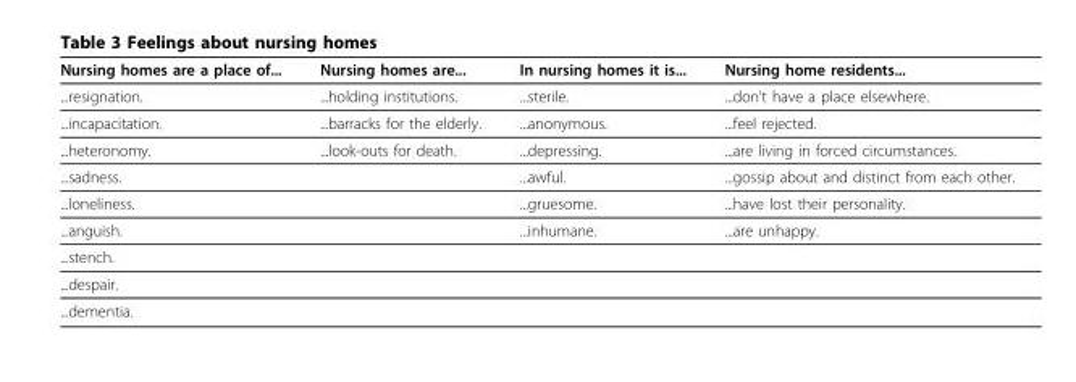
<table><thead><tr><td>Nursing homes are a place of...</td><td>Nursing homes are...</td><td>In nursing homes it is...</td><td>Nursing home residents...</td></tr></thead><tbody><tr><td>...resignation.</td><td>...holding institutions.</td><td>...sterile.</td><td>...don’t have a place elsewhere.</td></tr><tr><td>...incapacitation.</td><td>...barracks for the elderly.</td><td>...anonymous.</td><td>...feel rejected.</td></tr><tr><td>...heteronomy.</td><td>...look-outs for death.</td><td>...depressing.</td><td>...are living in forced circumstances.</td></tr><tr><td>...sadness.</td><td></td><td>...awful.</td><td>...gossip about and distinct from each other.</td></tr><tr><td>...loneliness.</td><td></td><td>...gruesome.</td><td>...have lost their personality.</td></tr><tr><td>...anguish.</td><td></td><td>...inhumane.</td><td>...are unhappy.</td></tr><tr><td colspan="4">...stench.</td></tr><tr><td colspan="4">...despair.</td></tr><tr><td>...dementia.</td><td></td><td></td><td></td></tr></tbody></table>